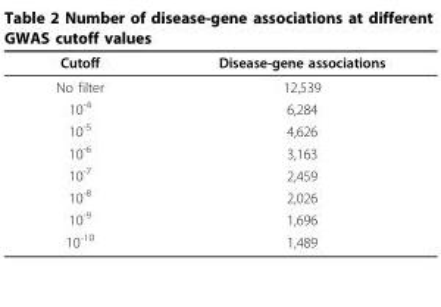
<table><thead><tr><td>Cutoff</td><td>Disease-gene associations</td></tr></thead><tbody><tr><td>No filter</td><td>12,539</td></tr><tr><td>10<sup>-4</sup></td><td>6,284</td></tr><tr><td>10<sup>-5</sup></td><td>4,626</td></tr><tr><td>10<sup>-6</sup></td><td>3,163</td></tr><tr><td>10<sup>-7</sup></td><td>2,459</td></tr><tr><td>10<sup>-8</sup></td><td>2,026</td></tr><tr><td>10<sup>-9</sup></td><td>1,696</td></tr><tr><td>10<sup>-10</sup></td><td>1,489</td></tr></tbody></table>